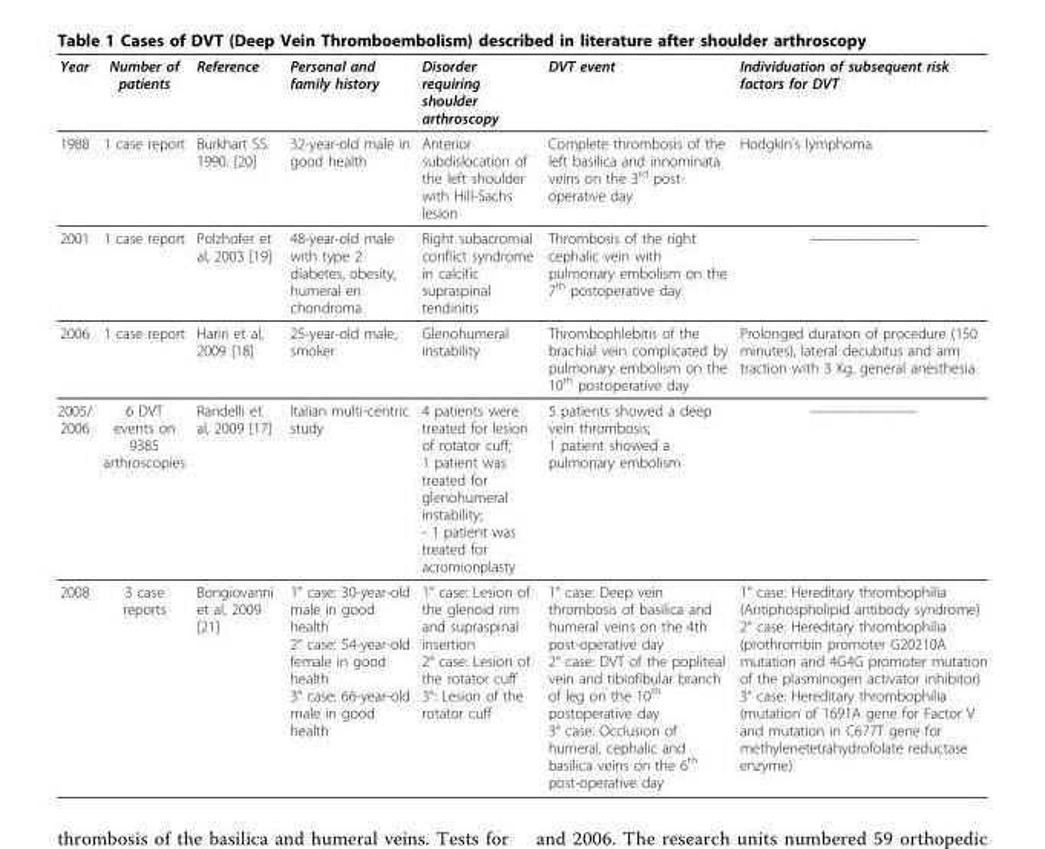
<table><thead><tr><td>Year</td><td>Number of patients</td><td>Reference</td><td>Personal and family history</td><td>Disorder requiring shoulder arthroscopy</td><td>DVT event</td><td>Individuation of subsequent risk factors for DVT</td></tr></thead><tbody><tr><td>1988</td><td>1 case report</td><td>Burkhart SS. 1990. [20]</td><td>32-year-old male in good health</td><td>Anterior subdislocation of the left shoulder with Hill-Sachs lesion</td><td>Complete thrombosis of the left basilica and innominata veins on the 3<sup>rd</sup> post- operative day</td><td>Hodgkin’s lymphoma</td></tr><tr><td>2001</td><td>1 case report</td><td>Polzhofer et al, 2003 [19]</td><td>48-year-old male with type 2 diabetes, obesity, humeral en chondroma</td><td>Right subacromial conflict syndrome in calcific supraspinal tendinitis</td><td>Thrombosis of the right cephalic vein with pulmonary embolism on the 7<sup>th</sup> postoperative day</td><td>———————</td></tr><tr><td>2006</td><td>1 case report</td><td>Hariri et al, 2009 [18]</td><td>25-year-old male, smoker</td><td>Glenohumeral instability</td><td>Thrombophlebitis of the brachial vein complicated by pulmonary embolism on the 10<sup>th</sup> postoperative day</td><td>Prolonged duration of procedure (150 minutes), lateral decubitus and arm traction with 3 Kg, general anesthesia</td></tr><tr><td>2005/ 2006</td><td>6 DVT events on 9385 arthroscopies</td><td>Randelli et al, 2009 [17]</td><td>Italian multi-centric study</td><td>4 patients were treated for lesion of rotator cuff; 1 patient was treated for glenohumeral instability; - 1 patient was treated for acromionplasty</td><td>5 patients showed a deep vein thrombosis; 1 patient showed a pulmonary embolism</td><td>———————</td></tr><tr><td>2008</td><td>3 case reports</td><td>Bongiovanni et al, 2009 [21]</td><td>1° case: 30-year-old male in good health 2° case: 54-year-old female in good health 3° case: 66-year-old male in good health</td><td>1° case: Lesion of the glenoid rim and supraspinal insertion 2° case: Lesion of the rotator cuff 3°: Lesion of the rotator cuff</td><td>1° case: Deep vein thrombosis of basilica and humeral veins on the 4th post-operative day 2° case: DVT of the popliteal vein and tibiofibular branch of leg on the 10<sup>th</sup> postoperative day 3° case: Occlusion of humeral, cephalic and basilica veins on the 6<sup>th</sup> post-operative day</td><td>1° case: Hereditary thrombophilia (Antiphospholipid antibody syndrome) 2° case: Hereditary thrombophilia (prothrombin promoter G20210A mutation and 4G4G promoter mutation of the plasminogen activator inhibitor) 3° case: Hereditary thrombophilia (mutation of 1691A gene for Factor V and mutation in C677T gene for methylenetetrahydrofolate reductase enzyme)</td></tr></tbody></table>